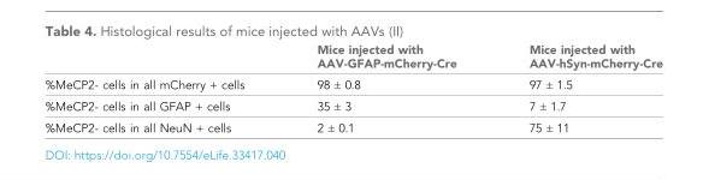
<table><thead><tr><td></td><td>Mice injected with AAV-GFAP-mCherry-Cre</td><td>Mice injected with AAV-hSyn-mCherry-Cre</td></tr></thead><tbody><tr><td>%MeCP2- cells in all mCherry + cells</td><td>98 ± 0.8</td><td>97 ± 1.5</td></tr><tr><td>%MeCP2- cells in all GFAP + cells</td><td>35 ± 3</td><td>7 ± 1.7</td></tr><tr><td>%MeCP2- cells in all NeuN + cells</td><td>2 ± 0.1</td><td>75 ± 11</td></tr></tbody></table>